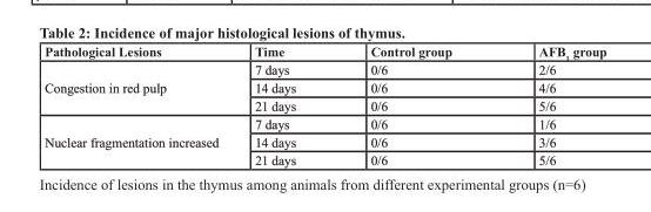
<table><thead><tr><td>Pathological Lesions</td><td>Time</td><td>Control group</td><td>AFB<sub>1</sub> group</td></tr></thead><tbody><tr><td rowspan="3">Congestion in red pulp</td><td>7 days</td><td>0/6</td><td>2/6</td></tr><tr><td>14 days</td><td>0/6</td><td>4/6</td></tr><tr><td>21 days</td><td>0/6</td><td>5/6</td></tr><tr><td rowspan="3">Nuclear fragmentation increased</td><td>7 days</td><td>0/6</td><td>1/6</td></tr><tr><td>14 days</td><td>0/6</td><td>3/6</td></tr><tr><td>21 days</td><td>0/6</td><td>5/6</td></tr></tbody></table>